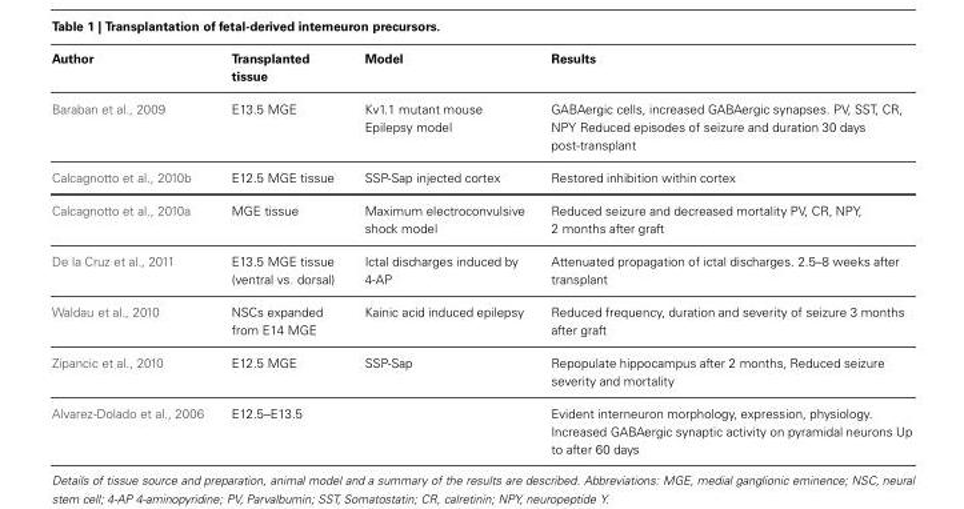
<table><thead><tr><td>Author</td><td>Transplanted tissue</td><td>Model</td><td>Results</td></tr></thead><tbody><tr><td>Baraban et al., 2009</td><td>E13.5 MGE</td><td>Kv1.1 mutant mouse Epilepsy model</td><td>GABAergic cells, increased GABAergic synapses. PV, SST, CR, NPY Reduced episodes of seizure and duration 30 days post-transplant</td></tr><tr><td>Calcagnotto et al., 2010b</td><td>E12.5 MGE tissue</td><td>SSP-Sap injected cortex</td><td>Restored inhibition within cortex</td></tr><tr><td>Calcagnotto et al., 2010a</td><td>MGE tissue</td><td>Maximum electroconvulsive shock model</td><td>Reduced seizure and decreased mortality PV, CR, NPY, 2 months after graft</td></tr><tr><td>De la Cruz et al., 2011</td><td>E13.5 MGE tissue (ventral vs. dorsal)</td><td>Ictal discharges induced by 4-AP</td><td>Attenuated propagation of ictal discharges. 2.5–8 weeks after transplant</td></tr><tr><td>Waldau et al., 2010</td><td>NSCs expanded from E14 MGE</td><td>Kainic acid induced epilepsy</td><td>Reduced frequency, duration and severity of seizure 3 months after graft</td></tr><tr><td>Zipancic et al., 2010</td><td>E12.5 MGE</td><td>SSP-Sap</td><td>Repopulate hippocampus after 2 months, Reduced seizure severity and mortality</td></tr><tr><td>Alvarez-Dolado et al., 2006</td><td>E12.5–E13.5</td><td></td><td>Evident interneuron morphology, expression, physiology. Increased GABAergic synaptic activity on pyramidal neurons Up to after 60 days</td></tr></tbody></table>